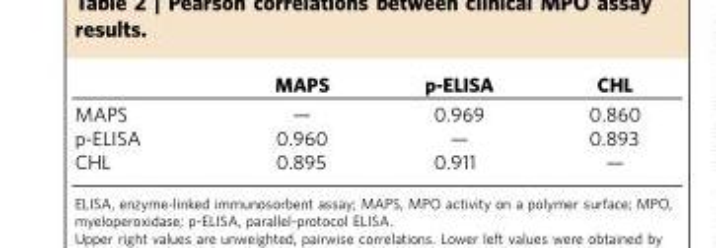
<table><thead><tr><td></td><td>MAPS</td><td>p-ELISA</td><td>CHL</td></tr></thead><tbody><tr><td>MAPS</td><td>—</td><td>0.969</td><td>0.860</td></tr><tr><td>p-ELISA</td><td>0.960</td><td>—</td><td>0.893</td></tr><tr><td>CHL</td><td>0.895</td><td>0.911</td><td>—</td></tr></tbody></table>